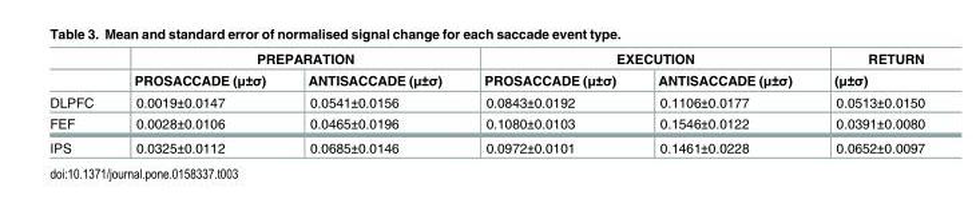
<table><thead><tr><td rowspan="2"></td><td colspan="2">PREPARATION</td><td colspan="2">EXECUTION</td><td rowspan="2">RETURN (μ±σ)</td></tr><tr><td>PROSACCADE (μ±σ)</td><td>ANTISACCADE (μ±σ)</td><td>PROSACCADE (μ±σ)</td><td>ANTISACCADE (μ±σ)</td></tr></thead><tbody><tr><td>DLPFC</td><td>0.0019±0.0147</td><td>0.0541±0.0156</td><td>0.0843±0.0192</td><td>0.1106±0.0177</td><td>0.0513±0.0150</td></tr><tr><td>FEF</td><td>0.0028±0.0106</td><td>0.0465±0.0196</td><td>0.1080±0.0103</td><td>0.1546±0.0122</td><td>0.0391±0.0080</td></tr><tr><td>IPS</td><td>0.0325±0.0112</td><td>0.0685±0.0146</td><td>0.0972±0.0101</td><td>0.1461±0.0228</td><td>0.0652±0.0097</td></tr></tbody></table>